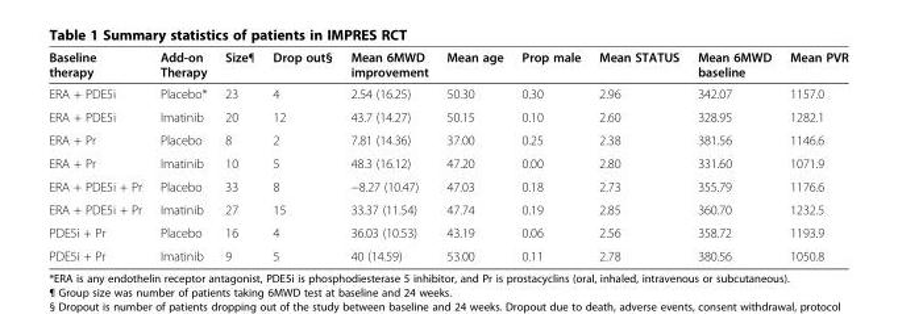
<table><thead><tr><td>Baseline therapy</td><td>Add-on Therapy</td><td>Size¶</td><td>Drop out§</td><td>Mean 6MWD improvement</td><td>Mean age</td><td>Prop male</td><td>Mean STATUS</td><td>Mean 6MWD baseline</td><td>Mean PVR</td></tr></thead><tbody><tr><td>ERA + PDE5i</td><td>Placebo*</td><td>23</td><td>4</td><td>2.54 (16.25)</td><td>50.30</td><td>0.30</td><td>2.96</td><td>342.07</td><td>1157.0</td></tr><tr><td>ERA + PDE5i</td><td>Imatinib</td><td>20</td><td>12</td><td>43.7 (14.27)</td><td>50.15</td><td>0.10</td><td>2.60</td><td>328.95</td><td>1282.1</td></tr><tr><td>ERA + Pr</td><td>Placebo</td><td>8</td><td>2</td><td>7.81 (14.36)</td><td>37.00</td><td>0.25</td><td>2.38</td><td>381.56</td><td>1146.6</td></tr><tr><td>ERA + Pr</td><td>Imatinib</td><td>10</td><td>5</td><td>48.3 (16.12)</td><td>47.20</td><td>0.00</td><td>2.80</td><td>331.60</td><td>1071.9</td></tr><tr><td>ERA + PDE5i + Pr</td><td>Placebo</td><td>33</td><td>8</td><td>−8.27 (10.47)</td><td>47.03</td><td>0.18</td><td>2.73</td><td>355.79</td><td>1176.6</td></tr><tr><td>ERA + PDE5i + Pr</td><td>Imatinib</td><td>27</td><td>15</td><td>33.37 (11.54)</td><td>47.74</td><td>0.19</td><td>2.85</td><td>360.70</td><td>1232.5</td></tr><tr><td>PDE5i + Pr</td><td>Placebo</td><td>16</td><td>4</td><td>36.03 (10.53)</td><td>43.19</td><td>0.06</td><td>2.56</td><td>358.72</td><td>1193.9</td></tr><tr><td>PDE5i + Pr</td><td>Imatinib</td><td>9</td><td>5</td><td>40 (14.59)</td><td>53.00</td><td>0.11</td><td>2.78</td><td>380.56</td><td>1050.8</td></tr></tbody></table>